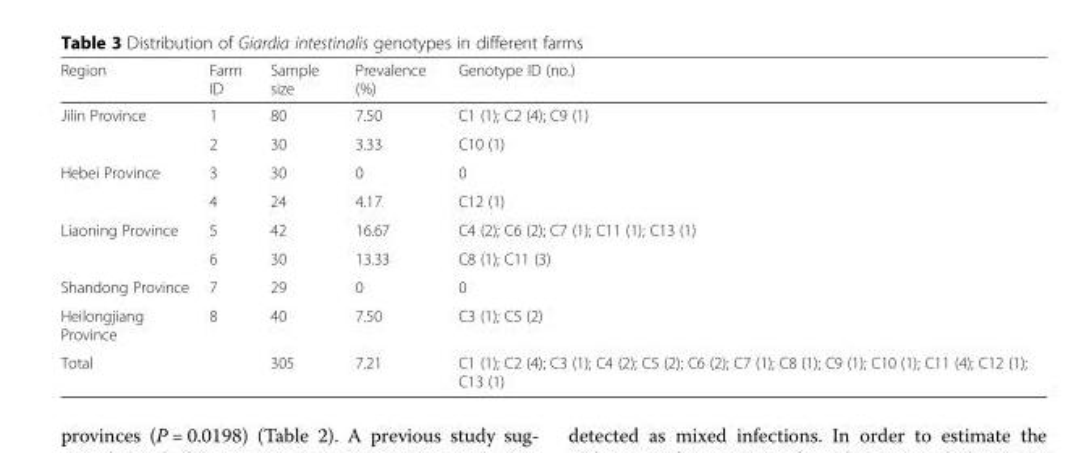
<table><thead><tr><td>Region</td><td>Farm ID</td><td>Sample size</td><td>Prevalence (%)</td><td>Genotype ID (no.)</td></tr></thead><tbody><tr><td rowspan="2">Jilin Province</td><td>1</td><td>80</td><td>7.50</td><td>C1 (1); C2 (4); C9 (1)</td></tr><tr><td>2</td><td>30</td><td>3.33</td><td>C10 (1)</td></tr><tr><td rowspan="2">Hebei Province</td><td>3</td><td>30</td><td>0</td><td>0</td></tr><tr><td>4</td><td>24</td><td>4.17</td><td>C12 (1)</td></tr><tr><td rowspan="2">Liaoning Province</td><td>5</td><td>42</td><td>16.67</td><td>C4 (2); C6 (2); C7 (1); C11 (1); C13 (1)</td></tr><tr><td>6</td><td>30</td><td>13.33</td><td>C8 (1); C11 (3)</td></tr><tr><td>Shandong Province</td><td>7</td><td>29</td><td>0</td><td>0</td></tr><tr><td>Heilongjiang Province</td><td>8</td><td>40</td><td>7.50</td><td>C3 (1); C5 (2)</td></tr><tr><td>Total</td><td></td><td>305</td><td>7.21</td><td>C1 (1); C2 (4); C3 (1); C4 (2); C5 (2); C6 (2); C7 (1); C8 (1); C9 (1); C10 (1); C11 (4); C12 (1); C13 (1)</td></tr></tbody></table>